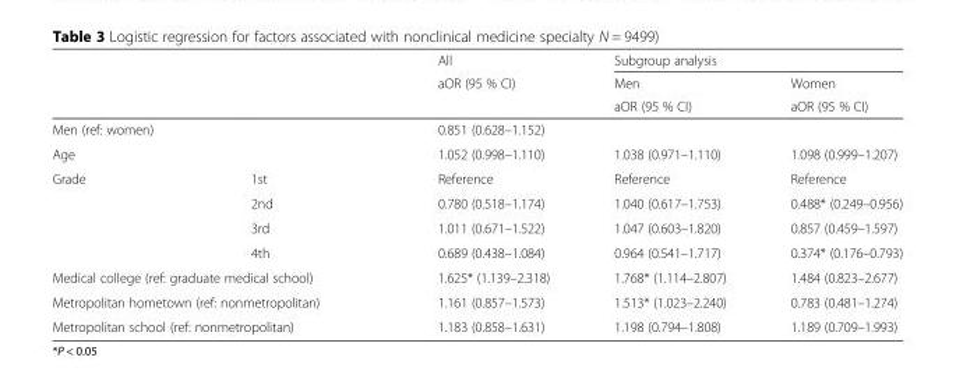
<table><thead><tr><td rowspan="3"></td><td rowspan="3"></td><td rowspan="3">All aOR (95 % CI)</td><td colspan="2">Subgroup analysis</td></tr><tr><td rowspan="2">Men aOR (95 % CI)</td><td rowspan="2">Women aOR (95 % CI)</td></tr><tr></tr></thead><tbody><tr><td colspan="2">Men (ref: women)</td><td>0.851 (0.628–1.152)</td><td></td><td></td></tr><tr><td colspan="2">Age</td><td>1.052 (0.998–1.110)</td><td>1.038 (0.971–1.110)</td><td>1.098 (0.999–1.207)</td></tr><tr><td rowspan="4">Grade</td><td>1st</td><td>Reference</td><td>Reference</td><td>Reference</td></tr><tr><td>2nd</td><td>0.780 (0.518–1.174)</td><td>1.040 (0.617–1.753)</td><td>0.488* (0.249–0.956)</td></tr><tr><td>3rd</td><td>1.011 (0.671–1.522)</td><td>1.047 (0.603–1.820)</td><td>0.857 (0.459–1.597)</td></tr><tr><td>4th</td><td>0.689 (0.438–1.084)</td><td>0.964 (0.541–1.717)</td><td>0.374* (0.176–0.793)</td></tr><tr><td colspan="2">Medical college (ref: graduate medical school)</td><td>1.625* (1.139–2.318)</td><td>1.768* (1.114–2.807)</td><td>1.484 (0.823–2.677)</td></tr><tr><td colspan="2">Metropolitan hometown (ref: nonmetropolitan)</td><td>1.161 (0.857–1.573)</td><td>1.513* (1.023–2.240)</td><td>0.783 (0.481–1.274)</td></tr><tr><td colspan="2">Metropolitan school (ref: nonmetropolitan)</td><td>1.183 (0.858–1.631)</td><td>1.198 (0.794–1.808)</td><td>1.189 (0.709–1.993)</td></tr></tbody></table>